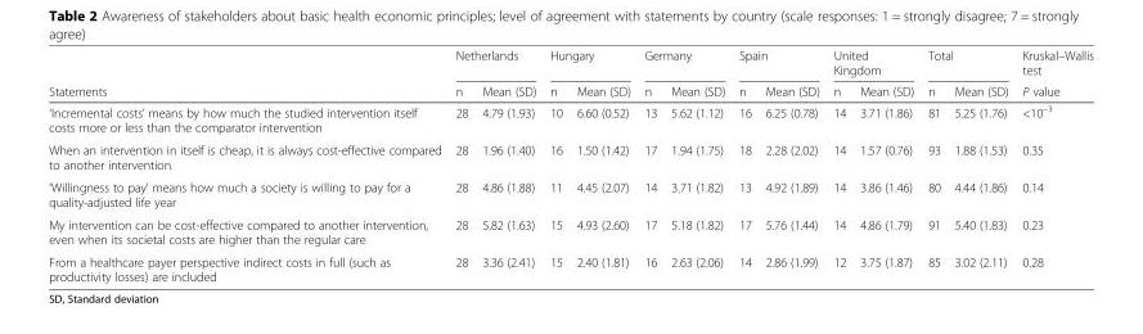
<table><thead><tr><td rowspan="2">Statements</td><td colspan="2">Netherlands</td><td colspan="2">Hungary</td><td colspan="2">Germany</td><td colspan="2">Spain</td><td colspan="2">United Kingdom</td><td colspan="2">Total</td><td rowspan="2">Kruskal–Wallis test P value</td></tr><tr><td>n</td><td>Mean (SD)</td><td>n</td><td>Mean (SD)</td><td>n</td><td>Mean (SD)</td><td>n</td><td>Mean (SD)</td><td>n</td><td>Mean (SD)</td><td>n</td><td>Mean (SD)</td></tr></thead><tbody><tr><td>‘Incremental costs’ means by how much the studied intervention itself costs more or less than the comparator intervention</td><td>28</td><td>4.79 (1.93)</td><td>10</td><td>6.60 (0.52)</td><td>13</td><td>5.62 (1.12)</td><td>16</td><td>6.25 (0.78)</td><td>14</td><td>3.71 (1.86)</td><td>81</td><td>5.25 (1.76)</td><td>&lt;10<sup>–3</sup></td></tr><tr><td>When an intervention in itself is cheap, it is always cost-effective compared to another intervention</td><td>28</td><td>1.96 (1.40)</td><td>16</td><td>1.50 (1.42)</td><td>17</td><td>1.94 (1.75)</td><td>18</td><td>2.28 (2.02)</td><td>14</td><td>1.57 (0.76)</td><td>93</td><td>1.88 (1.53)</td><td>0.35</td></tr><tr><td>‘Willingness to pay’ means how much a society is willing to pay for a quality-adjusted life year</td><td>28</td><td>4.86 (1.88)</td><td>11</td><td>4.45 (2.07)</td><td>14</td><td>3.71 (1.82)</td><td>13</td><td>4.92 (1.89)</td><td>14</td><td>3.86 (1.46)</td><td>80</td><td>4.44 (1.86)</td><td>0.14</td></tr><tr><td>My intervention can be cost-effective compared to another intervention, even when its societal costs are higher than the regular care</td><td>28</td><td>5.82 (1.63)</td><td>15</td><td>4.93 (2.60)</td><td>17</td><td>5.18 (1.82)</td><td>17</td><td>5.76 (1.44)</td><td>14</td><td>4.86 (1.79)</td><td>91</td><td>5.40 (1.83)</td><td>0.23</td></tr><tr><td>From a healthcare payer perspective indirect costs in full (such as productivity losses) are included</td><td>28</td><td>3.36 (2.41)</td><td>15</td><td>2.40 (1.81)</td><td>16</td><td>2.63 (2.06)</td><td>14</td><td>2.86 (1.99)</td><td>12</td><td>3.75 (1.87)</td><td>85</td><td>3.02 (2.11)</td><td>0.28</td></tr></tbody></table>